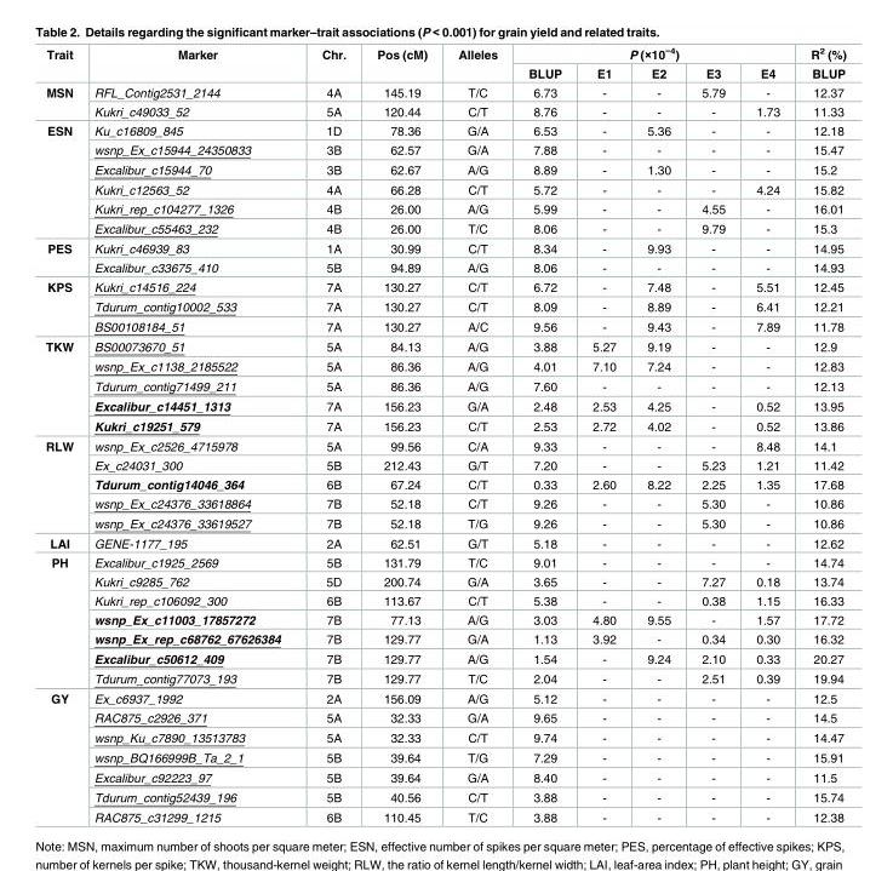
<table><thead><tr><td rowspan="2">Trait</td><td rowspan="2">Marker</td><td rowspan="2">Chr.</td><td rowspan="2">Pos (cM)</td><td rowspan="2">Alleles</td><td colspan="5">P (×10<sup>−4</sup>)</td><td rowspan="2">R<sup>2</sup> (%) BLUP</td></tr><tr><td>BLUP</td><td>E1</td><td>E2</td><td>E3</td><td>E4</td></tr></thead><tbody><tr><td rowspan="2">MSN</td><td>RFL_Contig2531_2144</td><td>4A</td><td>145.19</td><td>T/C</td><td>6.73</td><td>-</td><td>-</td><td>5.79</td><td>-</td><td>12.37</td></tr><tr><td>Kukri_c49033_52</td><td>5A</td><td>120.44</td><td>C/T</td><td>8.76</td><td>-</td><td>-</td><td>-</td><td>1.73</td><td>11.33</td></tr><tr><td rowspan="6">ESN</td><td>Ku_c16809_845</td><td>1D</td><td>78.36</td><td>G/A</td><td>6.53</td><td>-</td><td>5.36</td><td>-</td><td>-</td><td>12.18</td></tr><tr><td>wsnp_Ex_c15944_24350833</td><td>3B</td><td>62.57</td><td>G/A</td><td>7.88</td><td>-</td><td>-</td><td>-</td><td>-</td><td>15.47</td></tr><tr><td>Excalibur_c15944_70</td><td>3B</td><td>62.67</td><td>A/G</td><td>8.89</td><td>-</td><td>1.30</td><td>-</td><td>-</td><td>15.2</td></tr><tr><td>Kukri_c12563_52</td><td>4A</td><td>66.28</td><td>C/T</td><td>5.72</td><td>-</td><td>-</td><td>-</td><td>4.24</td><td>15.82</td></tr><tr><td>Kukri_rep_c104277_1326</td><td>4B</td><td>26.00</td><td>A/G</td><td>5.99</td><td>-</td><td>-</td><td>4.55</td><td>-</td><td>16.01</td></tr><tr><td>Excalibur_c55463_232</td><td>4B</td><td>26.00</td><td>T/C</td><td>8.06</td><td>-</td><td>-</td><td>9.79</td><td>-</td><td>15.3</td></tr><tr><td rowspan="2">PES</td><td>Kukri_c46939_83</td><td>1A</td><td>30.99</td><td>C/T</td><td>8.34</td><td>-</td><td>9.93</td><td>-</td><td>-</td><td>14.95</td></tr><tr><td>Excalibur_c33675_410</td><td>5B</td><td>94.89</td><td>A/G</td><td>8.06</td><td>-</td><td>-</td><td>-</td><td>-</td><td>14.93</td></tr><tr><td rowspan="3">KPS</td><td>Kukri_c14516_224</td><td>7A</td><td>130.27</td><td>C/T</td><td>6.72</td><td>-</td><td>7.48</td><td>-</td><td>5.51</td><td>12.45</td></tr><tr><td>Tdurum_contig10002_533</td><td>7A</td><td>130.27</td><td>C/T</td><td>8.09</td><td>-</td><td>8.89</td><td>-</td><td>6.41</td><td>12.21</td></tr><tr><td>BS00108184_51</td><td>7A</td><td>130.27</td><td>A/C</td><td>9.56</td><td>-</td><td>9.43</td><td>-</td><td>7.89</td><td>11.78</td></tr><tr><td rowspan="5">TKW</td><td>BS00073670_51</td><td>5A</td><td>84.13</td><td>A/G</td><td>3.88</td><td>5.27</td><td>9.19</td><td>-</td><td>-</td><td>12.9</td></tr><tr><td>wsnp_Ex_c1138_2185522</td><td>5A</td><td>86.36</td><td>A/G</td><td>4.01</td><td>7.10</td><td>7.24</td><td>-</td><td>-</td><td>12.83</td></tr><tr><td>Tdurum_contig71499_211</td><td>5A</td><td>86.36</td><td>A/G</td><td>7.60</td><td>-</td><td>-</td><td>-</td><td>-</td><td>12.13</td></tr><tr><td>Excalibur_c14451_1313</td><td>7A</td><td>156.23</td><td>G/A</td><td>2.48</td><td>2.53</td><td>4.25</td><td>-</td><td>0.52</td><td>13.95</td></tr><tr><td>Kukri_c19251_579</td><td>7A</td><td>156.23</td><td>C/T</td><td>2.53</td><td>2.72</td><td>4.02</td><td>-</td><td>0.52</td><td>13.86</td></tr><tr><td rowspan="5">RLW</td><td>wsnp_Ex_c2526_4715978</td><td>5A</td><td>99.56</td><td>C/A</td><td>9.33</td><td>-</td><td>-</td><td>-</td><td>8.48</td><td>14.1</td></tr><tr><td>Ex_c24031_300</td><td>5B</td><td>212.43</td><td>G/T</td><td>7.20</td><td>-</td><td>-</td><td>5.23</td><td>1.21</td><td>11.42</td></tr><tr><td>Tdurum_contig14046_364</td><td>6B</td><td>67.24</td><td>C/T</td><td>0.33</td><td>2.60</td><td>8.22</td><td>2.25</td><td>1.35</td><td>17.68</td></tr><tr><td>wsnp_Ex_c24376_33618864</td><td>7B</td><td>52.18</td><td>C/T</td><td>9.26</td><td>-</td><td>-</td><td>5.30</td><td>-</td><td>10.86</td></tr><tr><td>wsnp_Ex_c24376_33619527</td><td>7B</td><td>52.18</td><td>T/G</td><td>9.26</td><td>-</td><td>-</td><td>5.30</td><td>-</td><td>10.86</td></tr><tr><td>LAI</td><td>GENE-1177_195</td><td>2A</td><td>62.51</td><td>G/T</td><td>5.18</td><td>-</td><td>-</td><td>-</td><td>-</td><td>12.62</td></tr><tr><td rowspan="7">PH</td><td>Excalibur_c1925_2569</td><td>5B</td><td>131.79</td><td>T/C</td><td>9.01</td><td>-</td><td>-</td><td>-</td><td>-</td><td>14.74</td></tr><tr><td>Kukri_c9285_762</td><td>5D</td><td>200.74</td><td>G/A</td><td>3.65</td><td>-</td><td>-</td><td>7.27</td><td>0.18</td><td>13.74</td></tr><tr><td>Kukri_rep_c106092_300</td><td>6B</td><td>113.67</td><td>C/T</td><td>5.38</td><td>-</td><td>-</td><td>0.38</td><td>1.15</td><td>16.33</td></tr><tr><td>wsnp_Ex_c11003_17857272</td><td>7B</td><td>77.13</td><td>A/G</td><td>3.03</td><td>4.80</td><td>9.55</td><td>-</td><td>1.57</td><td>17.72</td></tr><tr><td>wsnp_Ex_rep_c68762_67626384</td><td>7B</td><td>129.77</td><td>G/A</td><td>1.13</td><td>3.92</td><td>-</td><td>0.34</td><td>0.30</td><td>16.32</td></tr><tr><td>Excalibur_c50612_409</td><td>7B</td><td>129.77</td><td>A/G</td><td>1.54</td><td>-</td><td>9.24</td><td>2.10</td><td>0.33</td><td>20.27</td></tr><tr><td>Tdurum_contig77073_193</td><td>7B</td><td>129.77</td><td>T/C</td><td>2.04</td><td>-</td><td>-</td><td>2.51</td><td>0.39</td><td>19.94</td></tr><tr><td rowspan="7">GY</td><td>Ex_c6937_1992</td><td>2A</td><td>156.09</td><td>A/G</td><td>5.12</td><td>-</td><td>-</td><td>-</td><td>-</td><td>12.5</td></tr><tr><td>RAC875_c2926_371</td><td>5A</td><td>32.33</td><td>G/A</td><td>9.65</td><td>-</td><td>-</td><td>-</td><td>-</td><td>14.5</td></tr><tr><td>wsnp_Ku_c7890_13513783</td><td>5A</td><td>32.33</td><td>C/T</td><td>9.74</td><td>-</td><td>-</td><td>-</td><td>-</td><td>14.47</td></tr><tr><td>wsnp_BQ166999B_Ta_2_1</td><td>5B</td><td>39.64</td><td>T/G</td><td>7.29</td><td>-</td><td>-</td><td>-</td><td>-</td><td>15.91</td></tr><tr><td>Excalibur_c92223_97</td><td>5B</td><td>39.64</td><td>G/A</td><td>8.40</td><td>-</td><td>-</td><td>-</td><td>-</td><td>11.5</td></tr><tr><td>Tdurum_contig52439_196</td><td>5B</td><td>40.56</td><td>C/T</td><td>3.88</td><td>-</td><td>-</td><td>-</td><td>-</td><td>15.74</td></tr><tr><td>RAC875_c31299_1215</td><td>6B</td><td>110.45</td><td>T/C</td><td>3.88</td><td>-</td><td>-</td><td>-</td><td>-</td><td>12.38</td></tr></tbody></table>